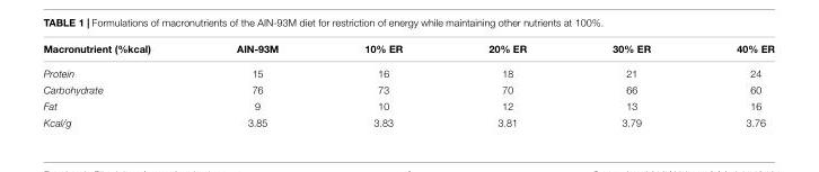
<table><thead><tr><td>Macronutrient (%kcal)</td><td>AIN-93M</td><td>10% ER</td><td>20% ER</td><td>30% ER</td><td>40% ER</td></tr></thead><tbody><tr><td>Protein</td><td>15</td><td>16</td><td>18</td><td>21</td><td>24</td></tr><tr><td>Carbohydrate</td><td>76</td><td>73</td><td>70</td><td>66</td><td>60</td></tr><tr><td>Fat</td><td>9</td><td>10</td><td>12</td><td>13</td><td>16</td></tr><tr><td>Kcal/g</td><td>3.85</td><td>3.83</td><td>3.81</td><td>3.79</td><td>3.76</td></tr></tbody></table>